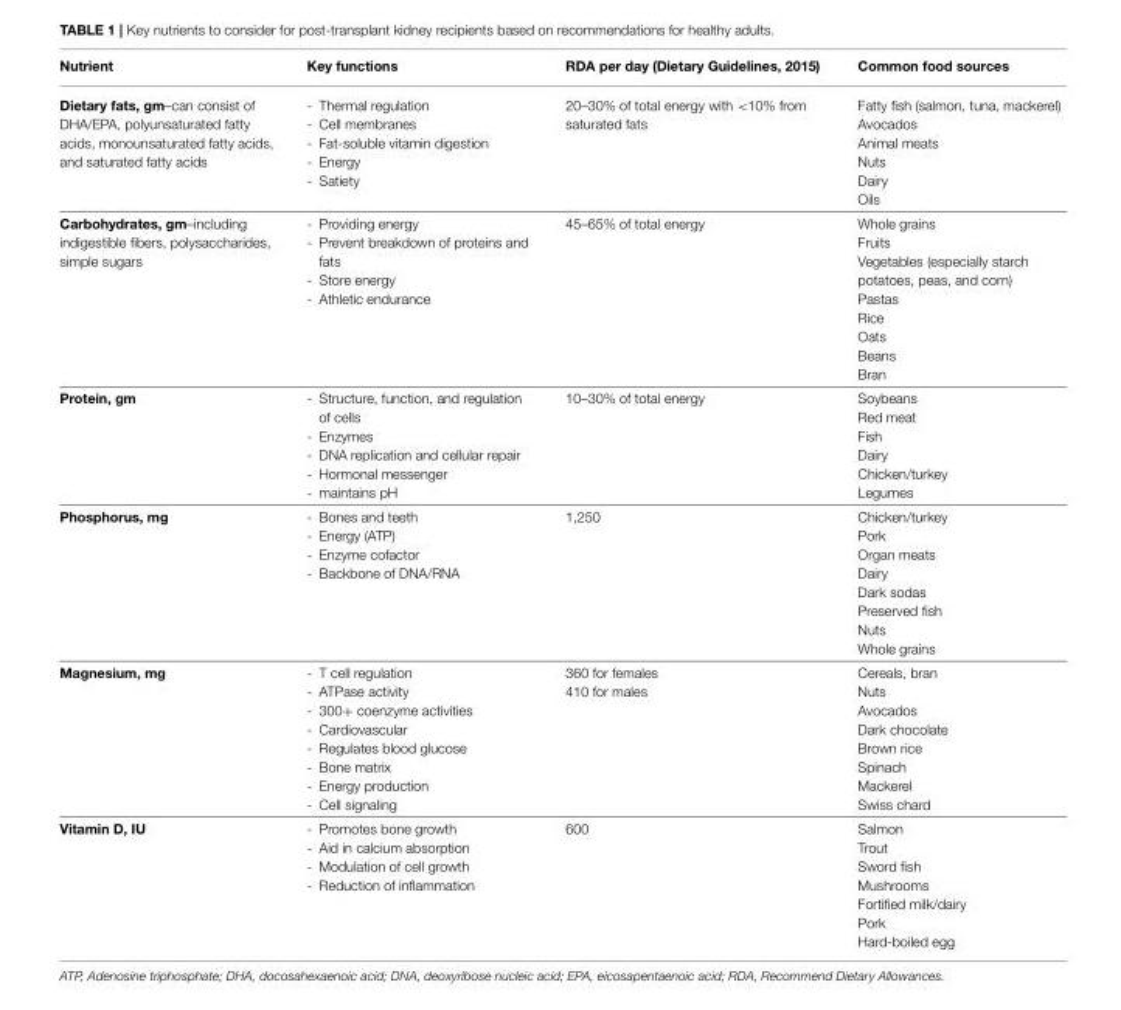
<table><thead><tr><td>Nutrient</td><td>Key functions</td><td>RDA per day (Dietary Guidelines, 2015)</td><td>Common food sources</td></tr></thead><tbody><tr><td>Dietary fats, gm–can consist of DHA/EPA, polyunsaturated fatty acids, monounsaturated fatty acids, and saturated fatty acids</td><td>- Thermal regulation - Cell membranes - Fat-soluble vitamin digestion - Energy - Satiety</td><td>20–30% of total energy with &lt;10% from saturated fats</td><td>Fatty fish (salmon, tuna, mackerel) Avocados Animal meats Nuts Dairy Oils</td></tr><tr><td>Carbohydrates, gm–including indigestible fibers, polysaccharides, simple sugars</td><td>- Providing energy - Prevent breakdown of proteins and fats - Store energy - Athletic endurance</td><td>45–65% of total energy</td><td>Whole grains Fruits Vegetables (especially starch potatoes, peas, and corn) Pastas Rice Oats Beans Bran</td></tr><tr><td>Protein, gm</td><td>- Structure, function, and regulation of cells - Enzymes - DNA replication and cellular repair - Hormonal messenger - maintains pH</td><td>10–30% of total energy</td><td>Soybeans Red meat Fish Dairy Chicken/turkey Legumes</td></tr><tr><td>Phosphorus, mg</td><td>- Bones and teeth - Energy (ATP) - Enzyme cofactor - Backbone of DNA/RNA</td><td>1,250</td><td>Chicken/turkey Pork Organ meats Dairy Dark sodas Preserved fish Nuts Whole grains</td></tr><tr><td>Magnesium, mg</td><td>- T cell regulation - ATPase activity - 300+ coenzyme activities - Cardiovascular - Regulates blood glucose - Bone matrix - Energy production - Cell signaling</td><td>360 for females 410 for males</td><td>Cereals, bran Nuts Avocados Dark chocolate Brown rice Spinach Mackerel Swiss chard</td></tr><tr><td>Vitamin D, IU</td><td>- Promotes bone growth - Aid in calcium absorption - Modulation of cell growth - Reduction of inflammation</td><td>600</td><td>Salmon Trout Sword fish Mushrooms Fortified milk/dairy Pork Hard-boiled egg</td></tr></tbody></table>